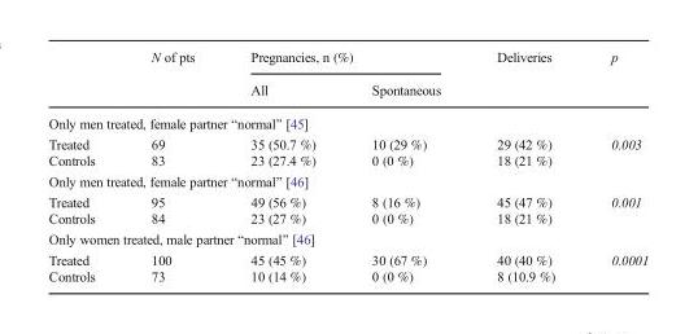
<table><thead><tr><td rowspan="2"></td><td rowspan="2">N of pts</td><td colspan="2">Pregnancies, n (%)</td><td rowspan="2">Deliveries</td><td rowspan="2">p</td></tr><tr><td>All</td><td>Spontaneous</td></tr></thead><tbody><tr><td colspan="6">Only men treated, female partner “normal” [45]</td></tr><tr><td>Treated</td><td>69</td><td>35 (50.7 %)</td><td>10 (29 %)</td><td>29 (42 %)</td><td rowspan="2">0.003</td></tr><tr><td>Controls</td><td>83</td><td>23 (27.4 %)</td><td>0 (0 %)</td><td>18 (21 %)</td></tr><tr><td colspan="6">Only men treated, female partner “normal” [46]</td></tr><tr><td>Treated</td><td>95</td><td>49 (56 %)</td><td>8 (16 %)</td><td>45 (47 %)</td><td rowspan="2">0.001</td></tr><tr><td>Controls</td><td>84</td><td>23 (27 %)</td><td>0 (0 %)</td><td>18 (21 %)</td></tr><tr><td colspan="6">Only women treated, male partner “normal” [46]</td></tr><tr><td>Treated</td><td>100</td><td>45 (45 %)</td><td>30 (67 %)</td><td>40 (40 %)</td><td rowspan="2">0.0001</td></tr><tr><td>Controls</td><td>73</td><td>10 (14 %)</td><td>0 (0 %)</td><td>8 (10.9 %)</td></tr></tbody></table>